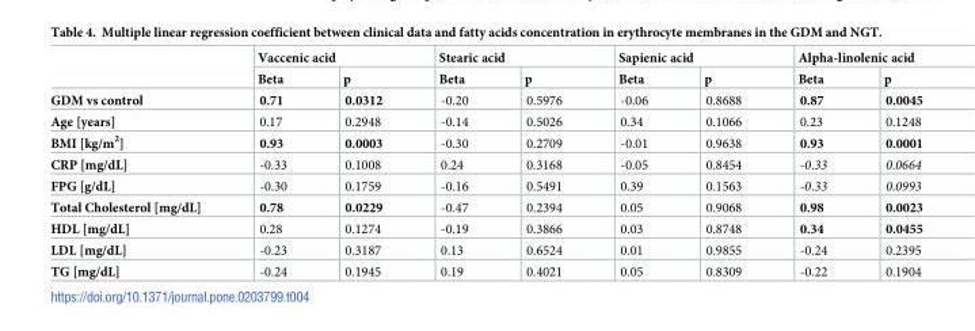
<table><thead><tr><td rowspan="2"></td><td colspan="2">Vaccenic acid</td><td colspan="2">Stearic acid</td><td colspan="2">Sapienic acid</td><td colspan="2">Alpha-linolenic acid</td></tr><tr><td>Beta</td><td>p</td><td>Beta</td><td>p</td><td>Beta</td><td>p</td><td>Beta</td><td>p</td></tr></thead><tbody><tr><td>GDM vs control</td><td>0.71</td><td>0.0312</td><td>-0.20</td><td>0.5976</td><td>-0.06</td><td>0.8688</td><td>0.87</td><td>0.0045</td></tr><tr><td>Age [years]</td><td>0.17</td><td>0.2948</td><td>-0.14</td><td>0.5026</td><td>0.34</td><td>0.1066</td><td>0.23</td><td>0.1248</td></tr><tr><td>BMI [kg/m<sup>2</sup>]</td><td>0.93</td><td>0.0003</td><td>-0.30</td><td>0.2709</td><td>-0.01</td><td>0.9638</td><td>0.93</td><td>0.0001</td></tr><tr><td>CRP [mg/dL]</td><td>-0.33</td><td>0.1008</td><td>0.24</td><td>0.3168</td><td>-0.05</td><td>0.8454</td><td>-0.33</td><td>0.0664</td></tr><tr><td>FPG [g/dL]</td><td>-0.30</td><td>0.1759</td><td>-0.16</td><td>0.5491</td><td>0.39</td><td>0.1563</td><td>-0.33</td><td>0.0993</td></tr><tr><td>Total Cholesterol [mg/dL]</td><td>0.78</td><td>0.0229</td><td>-0.47</td><td>0.2394</td><td>0.05</td><td>0.9068</td><td>0.98</td><td>0.0023</td></tr><tr><td>HDL [mg/dL]</td><td>0.28</td><td>0.1274</td><td>-0.19</td><td>0.3866</td><td>0.03</td><td>0.8748</td><td>0.34</td><td>0.0455</td></tr><tr><td>LDL [mg/dL]</td><td>-0.23</td><td>0.3187</td><td>0.13</td><td>0.6524</td><td>0.01</td><td>0.9855</td><td>-0.24</td><td>0.2395</td></tr><tr><td>TG [mg/dL]</td><td>-0.24</td><td>0.1945</td><td>0.19</td><td>0.4021</td><td>0.05</td><td>0.8309</td><td>-0.22</td><td>0.1904</td></tr></tbody></table>